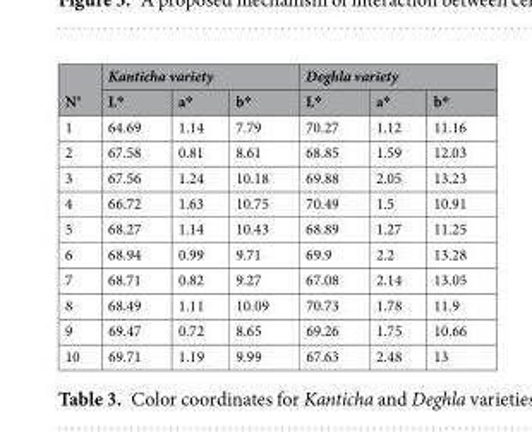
<table><thead><tr><td rowspan="2">N°</td><td colspan="3">Kanticha variety</td><td colspan="3">Deghla variety</td></tr><tr><td>L*</td><td>a*</td><td>b*</td><td>L*</td><td>a*</td><td>b*</td></tr></thead><tbody><tr><td>1</td><td>64.69</td><td>1.14</td><td>7.79</td><td>70.27</td><td>1.12</td><td>11.16</td></tr><tr><td>2</td><td>67.58</td><td>0.81</td><td>8.61</td><td>68.85</td><td>1.59</td><td>12.03</td></tr><tr><td>3</td><td>67.56</td><td>1.24</td><td>10.18</td><td>69.88</td><td>2.05</td><td>13.23</td></tr><tr><td>4</td><td>66.72</td><td>1.63</td><td>10.75</td><td>70.49</td><td>1.5</td><td>10.91</td></tr><tr><td>5</td><td>68.27</td><td>1.14</td><td>10.43</td><td>68.89</td><td>1.27</td><td>11.25</td></tr><tr><td>6</td><td>68.94</td><td>0.99</td><td>9.71</td><td>69.9</td><td>2.2</td><td>13.28</td></tr><tr><td>7</td><td>68.71</td><td>0.82</td><td>9.27</td><td>67.08</td><td>2.14</td><td>13.05</td></tr><tr><td>8</td><td>68.49</td><td>1.11</td><td>10.09</td><td>70.73</td><td>1.78</td><td>11.9</td></tr><tr><td>9</td><td>69.47</td><td>0.72</td><td>8.65</td><td>69.26</td><td>1.75</td><td>10.66</td></tr><tr><td>10</td><td>69.71</td><td>1.19</td><td>9.99</td><td>67.63</td><td>2.48</td><td>13</td></tr></tbody></table>